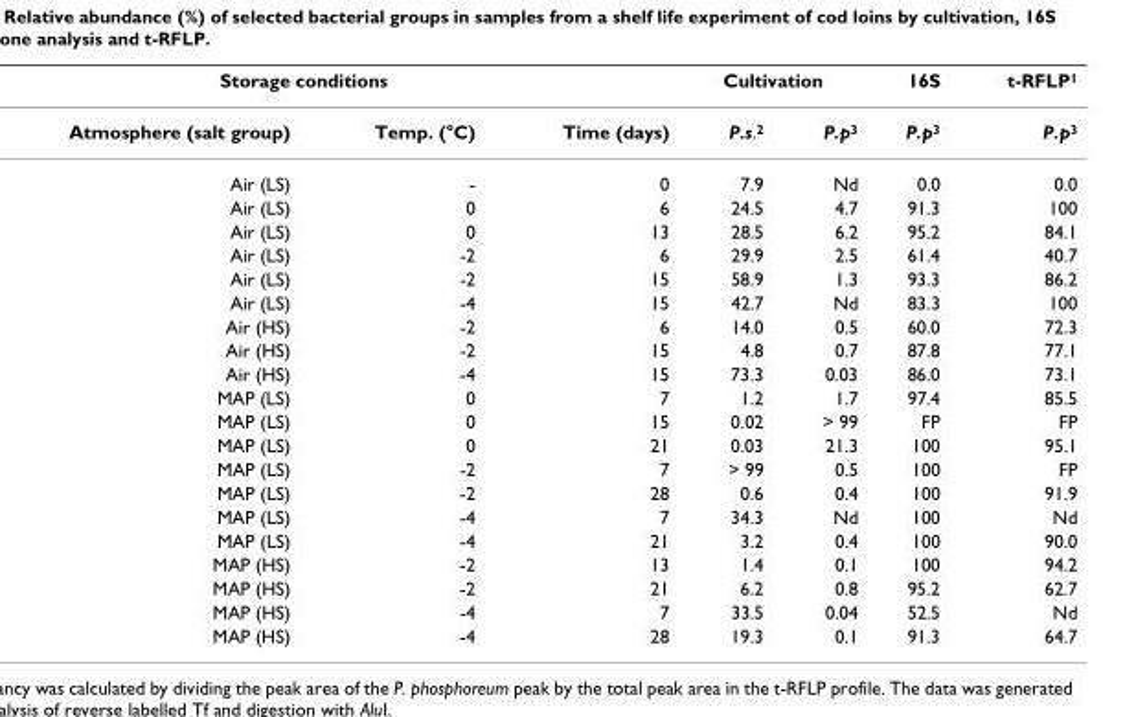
<table><thead><tr><td colspan="3">Storage conditions</td><td colspan="2">Cultivation</td><td rowspan="2">16S P.p3</td><td rowspan="2">t-RFLP1 P.p3</td></tr><tr><td>Atmosphere (salt group)</td><td>Temp. (°C)</td><td>Time (days)</td><td>P.s.2</td><td>P.p3</td></tr></thead><tbody><tr><td>Air (LS)</td><td>-</td><td>0</td><td>7.9</td><td>Nd</td><td>0.0</td><td>0.0</td></tr><tr><td>Air (LS)</td><td>0</td><td>6</td><td>24.5</td><td>4.7</td><td>91.3</td><td>100</td></tr><tr><td>Air (LS)</td><td>0</td><td>13</td><td>28.5</td><td>6.2</td><td>95.2</td><td>84.1</td></tr><tr><td>Air (LS)</td><td>-2</td><td>6</td><td>29.9</td><td>2.5</td><td>61.4</td><td>40.7</td></tr><tr><td>Air (LS)</td><td>-2</td><td>15</td><td>58.9</td><td>1.3</td><td>93.3</td><td>86.2</td></tr><tr><td>Air (LS)</td><td>-4</td><td>15</td><td>42.7</td><td>Nd</td><td>83.3</td><td>100</td></tr><tr><td>Air (HS)</td><td>-2</td><td>6</td><td>14.0</td><td>0.5</td><td>60.0</td><td>72.3</td></tr><tr><td>Air (HS)</td><td>-2</td><td>15</td><td>4.8</td><td>0.7</td><td>87.8</td><td>77.1</td></tr><tr><td>Air (HS)</td><td>-4</td><td>15</td><td>73.3</td><td>0.03</td><td>86.0</td><td>73.1</td></tr><tr><td>MAP (LS)</td><td>0</td><td>7</td><td>1.2</td><td>1.7</td><td>97.4</td><td>85.5</td></tr><tr><td>MAP (LS)</td><td>0</td><td>15</td><td>0.02</td><td>&gt; 99</td><td>FP</td><td>FP</td></tr><tr><td>MAP (LS)</td><td>0</td><td>21</td><td>0.03</td><td>21.3</td><td>100</td><td>95.1</td></tr><tr><td>MAP (LS)</td><td>-2</td><td>7</td><td>&gt; 99</td><td>0.5</td><td>100</td><td>FP</td></tr><tr><td>MAP (LS)</td><td>-2</td><td>28</td><td>0.6</td><td>0.4</td><td>100</td><td>91.9</td></tr><tr><td>MAP (LS)</td><td>-4</td><td>7</td><td>34.3</td><td>Nd</td><td>100</td><td>Nd</td></tr><tr><td>MAP (LS)</td><td>-4</td><td>21</td><td>3.2</td><td>0.4</td><td>100</td><td>90.0</td></tr><tr><td>MAP (HS)</td><td>-2</td><td>13</td><td>1.4</td><td>0.1</td><td>100</td><td>94.2</td></tr><tr><td>MAP (HS)</td><td>-2</td><td>21</td><td>6.2</td><td>0.8</td><td>95.2</td><td>62.7</td></tr><tr><td>MAP (HS)</td><td>-4</td><td>7</td><td>33.5</td><td>0.04</td><td>52.5</td><td>Nd</td></tr><tr><td>MAP (HS)</td><td>-4</td><td>28</td><td>19.3</td><td>0.1</td><td>91.3</td><td>64.7</td></tr></tbody></table>